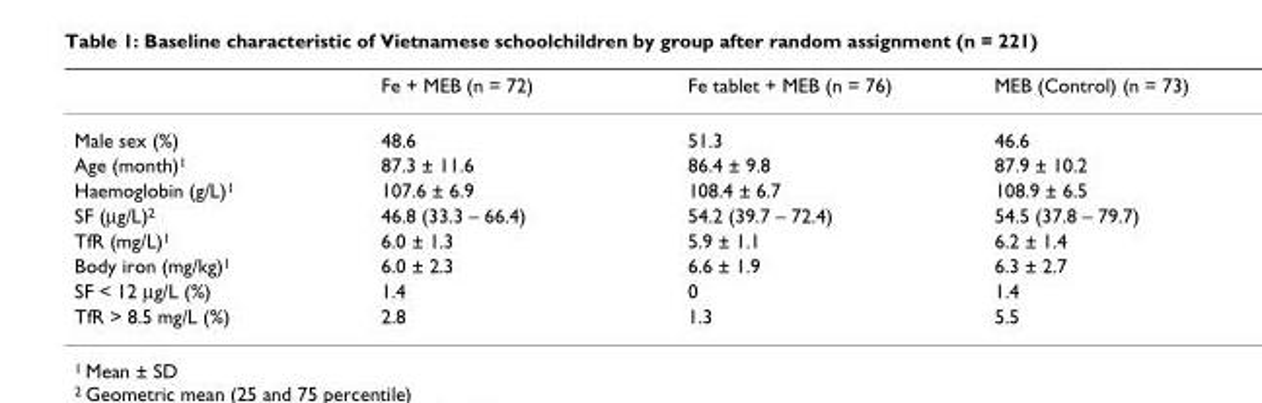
<table><thead><tr><td></td><td>Fe + MEB (n = 72)</td><td>Fe tablet + MEB (n = 76)</td><td>MEB (Control) (n = 73)</td></tr></thead><tbody><tr><td>Male sex (%)</td><td>48.6</td><td>51.3</td><td>46.6</td></tr><tr><td>Age (month)<sup>1</sup></td><td>87.3 ± 11.6</td><td>86.4 ± 9.8</td><td>87.9 ± 10.2</td></tr><tr><td>Haemoglobin (g/L)<sup>1</sup></td><td>107.6 ± 6.9</td><td>108.4 ± 6.7</td><td>108.9 ± 6.5</td></tr><tr><td>SF (μg/L)<sup>2</sup></td><td>46.8 (33.3 – 66.4)</td><td>54.2 (39.7 – 72.4)</td><td>54.5 (37.8 – 79.7)</td></tr><tr><td>TfR (mg/L)<sup>1</sup></td><td>6.0 ± 1.3</td><td>5.9 ± 1.1</td><td>6.2 ± 1.4</td></tr><tr><td>Body iron (mg/kg)<sup>1</sup></td><td>6.0 ± 2.3</td><td>6.6 ± 1.9</td><td>6.3 ± 2.7</td></tr><tr><td>SF &lt; 12 μg/L (%)</td><td>1.4</td><td>0</td><td>1.4</td></tr><tr><td>TfR &gt; 8.5 mg/L (%)</td><td>2.8</td><td>1.3</td><td>5.5</td></tr></tbody></table>